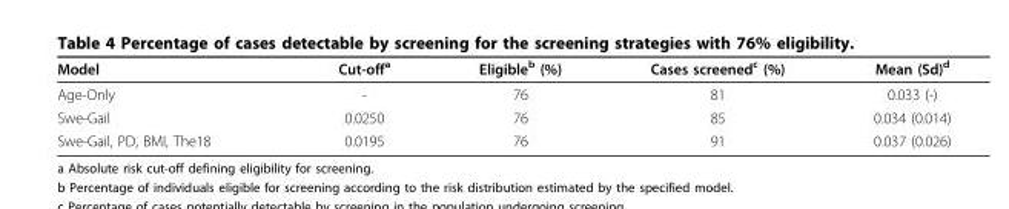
<table><thead><tr><td>Model</td><td>Cut-off<sup>a</sup></td><td>Eligible<sup>b</sup> (%)</td><td>Cases screened<sup>c</sup> (%)</td><td>Mean (Sd)<sup>d</sup></td></tr></thead><tbody><tr><td>Age-Only</td><td>-</td><td>76</td><td>81</td><td>0.033 (-)</td></tr><tr><td>Swe-Gail</td><td>0.0250</td><td>76</td><td>85</td><td>0.034 (0.014)</td></tr><tr><td>Swe-Gail, PD, BMI, The18</td><td>0.0195</td><td>76</td><td>91</td><td>0.037 (0.026)</td></tr></tbody></table>